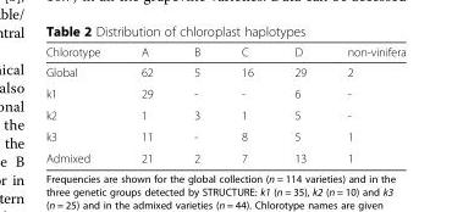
<table><thead><tr><td>Chlorotype</td><td>A</td><td>B</td><td>C</td><td>D</td><td>non-vinifera</td></tr></thead><tbody><tr><td>Global</td><td>62</td><td>5</td><td>16</td><td>29</td><td>2</td></tr><tr><td>k1</td><td>29</td><td>-</td><td>-</td><td>6</td><td>-</td></tr><tr><td>k2</td><td>1</td><td>3</td><td>1</td><td>5</td><td>-</td></tr><tr><td>k3</td><td>11</td><td>-</td><td>8</td><td>5</td><td>1</td></tr><tr><td>Admixed</td><td>21</td><td>2</td><td>7</td><td>13</td><td>1</td></tr></tbody></table>